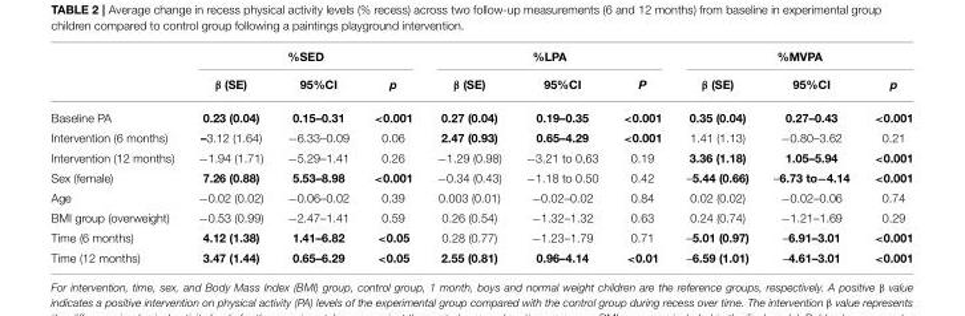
<table><thead><tr><td rowspan="2"></td><td colspan="3">%SED</td><td colspan="3">%LPA</td><td colspan="3">%MVPA</td></tr><tr><td>β (SE)</td><td>95%CI</td><td>p</td><td>β (SE)</td><td>95%CI</td><td>P</td><td>β (SE)</td><td>95%CI</td><td>p</td></tr></thead><tbody><tr><td>Baseline PA</td><td>0.23 (0.04)</td><td>0.15–0.31</td><td>&lt;0.001</td><td>0.27 (0.04)</td><td>0.19–0.35</td><td>&lt;0.001</td><td>0.35 (0.04)</td><td>0.27–0.43</td><td>&lt;0.001</td></tr><tr><td>Intervention (6 months)</td><td>–3.12 (1.64)</td><td>−6.33–0.09</td><td>0.06</td><td>2.47 (0.93)</td><td>0.65–4.29</td><td>&lt;0.001</td><td>1.41 (1.13)</td><td>−0.80–3.62</td><td>0.21</td></tr><tr><td>Intervention (12 months)</td><td>−1.94 (1.71)</td><td>−5.29–1.41</td><td>0.26</td><td>−1.29 (0.98)</td><td>−3.21 to 0,63</td><td>0.19</td><td>3.36 (1.18)</td><td>1.05–5.94</td><td>&lt;0.001</td></tr><tr><td>Sex (female)</td><td>7.26 (0.88)</td><td>5.53–8.98</td><td>&lt;0.001</td><td>−0.34 (0.43)</td><td>−1.18 to 0.50</td><td>0.42</td><td>–5.44 (0.66)</td><td>–6.73 to−4.14</td><td>&lt;0.001</td></tr><tr><td>Age</td><td>−0.02 (0.02)</td><td>−0.06–0.02</td><td>0.39</td><td>0.003 (0.01)</td><td>−0.02–0.02</td><td>0.84</td><td>0.02 (0.02)</td><td>−0.02–0.06</td><td>0.74</td></tr><tr><td>BMI group (overweight)</td><td>−0.53 (0.99)</td><td>−2.47–1.41</td><td>0.59</td><td>0.26 (0.54)</td><td>−1.32–1.32</td><td>0.63</td><td>0.24 (0.74)</td><td>−1.21–1.69</td><td>0.29</td></tr><tr><td>Time (6 months)</td><td>4.12 (1.38)</td><td>1.41–6.82</td><td>&lt;0.05</td><td>0.28 (0.77)</td><td>−1.23–1.79</td><td>0.71</td><td>–5.01 (0.97)</td><td>–6.91–3.01</td><td>&lt;0.001</td></tr><tr><td>Time (12 months)</td><td>3.47 (1.44)</td><td>0.65–6.29</td><td>&lt;0.05</td><td>2.55 (0.81)</td><td>0.96–4.14</td><td>&lt;0.01</td><td>–6.59 (1.01)</td><td>–4.61–3.01</td><td>&lt;0.001</td></tr></tbody></table>